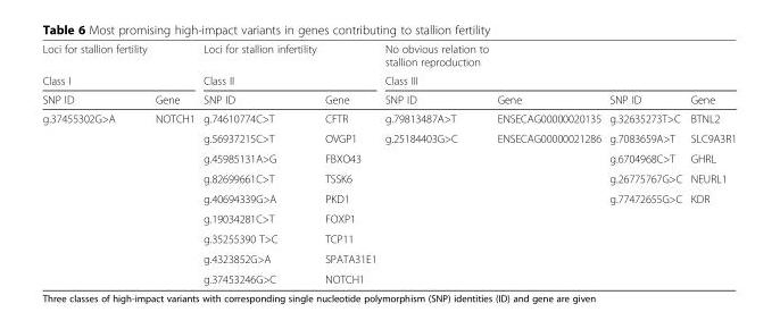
<table><thead><tr><td>Loci for stallion fertility</td><td></td><td>Loci for stallion infertility</td><td></td><td>No obvious relation to stallion reproduction</td><td></td><td></td><td></td></tr><tr><td colspan="2">Class I</td><td colspan="2">Class II</td><td colspan="4">Class III</td></tr><tr><td>SNP ID</td><td>Gene</td><td>SNP ID</td><td>Gene</td><td>SNP ID</td><td>Gene</td><td>SNP ID</td><td>Gene</td></tr></thead><tbody><tr><td rowspan="9">g.37455302G&gt;A</td><td>NOTCH1</td><td>g.74610774C&gt;T</td><td>CFTR</td><td>g.79813487A&gt;T</td><td>ENSECAG00000020135</td><td>g.32635273T&gt;C</td><td>BTNL2</td></tr><tr><td></td><td>g.56937215C&gt;T</td><td>OVGP1</td><td>g.25184403G&gt;C</td><td>ENSECAG00000021286</td><td>g.7083659A&gt;T</td><td>SLC9A3R1</td></tr><tr><td></td><td>g.45985131A&gt;G</td><td>FBXO43</td><td></td><td></td><td>g.6704968C&gt;T</td><td>GHRL</td></tr><tr><td></td><td>g.82699661C&gt;T</td><td>TSSK6</td><td></td><td></td><td>g.26775767G&gt;C</td><td>NEURL1</td></tr><tr><td></td><td>g.40694339G&gt;A</td><td>PKD1</td><td></td><td></td><td>g.77472655G&gt;C</td><td>KDR</td></tr><tr><td></td><td>g.19034281C&gt;T</td><td>FOXP1</td><td></td><td></td><td></td><td></td></tr><tr><td></td><td>g.35255390 T&gt;C</td><td>TCP11</td><td></td><td></td><td></td><td></td></tr><tr><td></td><td>g.4323852G&gt;A</td><td>SPATA31E1</td><td></td><td></td><td></td><td></td></tr><tr><td></td><td>g.37453246G&gt;C</td><td>NOTCH1</td><td></td><td></td><td></td><td></td></tr></tbody></table>